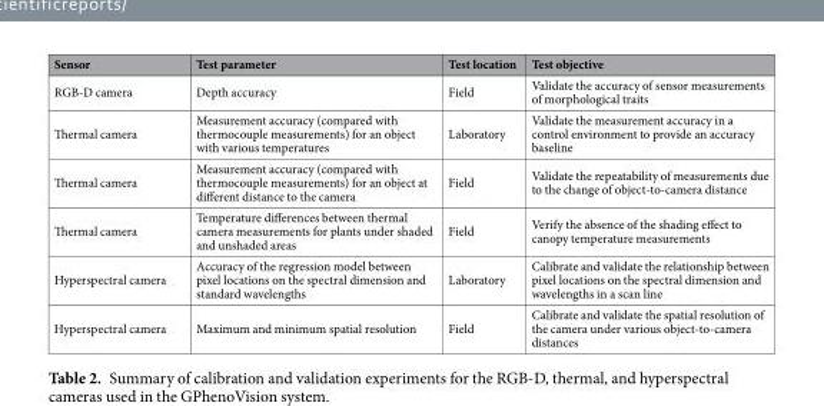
<table><thead><tr><td>Sensor</td><td>Test parameter</td><td>Test location</td><td>Test objective</td></tr></thead><tbody><tr><td>RGB-D camera</td><td>Depth accuracy</td><td>Field</td><td>Validate the accuracy of sensor measurements of morphological traits</td></tr><tr><td>Thermal camera</td><td>Measurement accuracy (compared with thermocouple measurements) for an object with various temperatures</td><td>Laboratory</td><td>Validate the measurement accuracy in a control environment to provide an accuracy baseline</td></tr><tr><td>Thermal camera</td><td>Measurement accuracy (compared with thermocouple measurements) for an object at different distance to the camera</td><td>Field</td><td>Validate the repeatability of measurements due to the change of object-to-camera distance</td></tr><tr><td>Thermal camera</td><td>Temperature differences between thermal camera measurements for plants under shaded and unshaded areas</td><td>Field</td><td>Verify the absence of the shading effect to canopy temperature measurements</td></tr><tr><td>Hyperspectral camera</td><td>Accuracy of the regression model between pixel locations on the spectral dimension and standard wavelengths</td><td>Laboratory</td><td>Calibrate and validate the relationship between pixel locations on the spectral dimension and wavelengths in a scan line</td></tr><tr><td>Hyperspectral camera</td><td>Maximum and minimum spatial resolution</td><td>Field</td><td>Calibrate and validate the spatial resolution of the camera under various object-to-camera distances</td></tr></tbody></table>